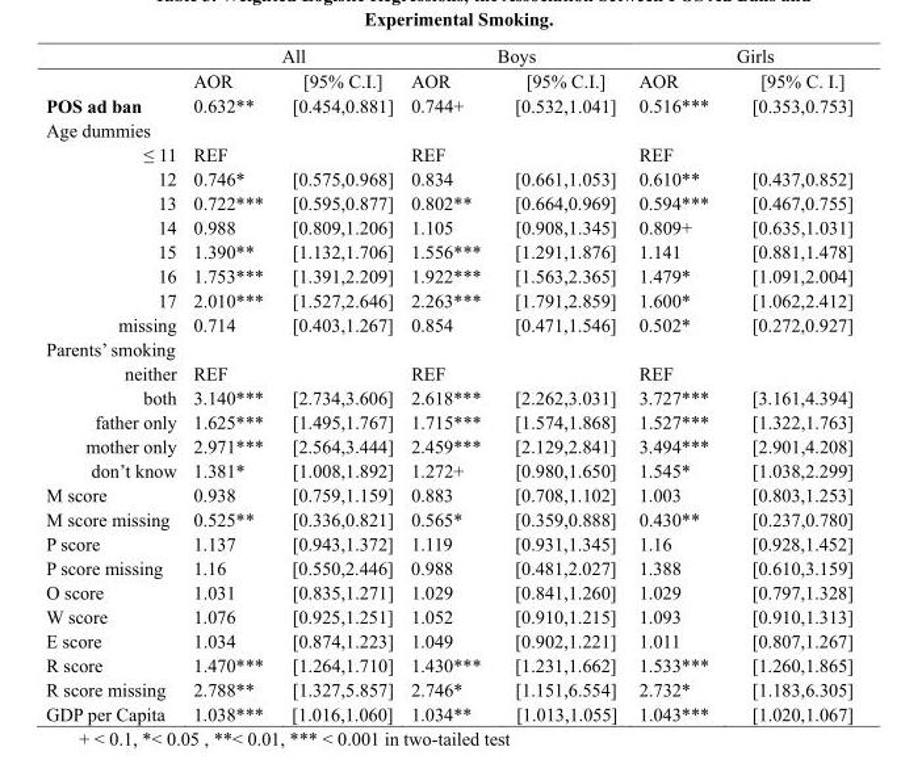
<table><thead><tr><td rowspan="2"></td><td colspan="2">All</td><td colspan="2">Boys</td><td colspan="2">Girls</td></tr><tr><td>AOR</td><td>[95% C.I.]</td><td>AOR</td><td>[95% C.I.]</td><td>AOR</td><td>[95% C. I.]</td></tr></thead><tbody><tr><td>POS ad ban</td><td>0.632**</td><td>[0.454,0.881]</td><td>0.744+</td><td>[0.532,1.041]</td><td>0.516***</td><td>[0.353,0.753]</td></tr><tr><td colspan="7">Age dummies</td></tr><tr><td>≤ 11</td><td>REF</td><td></td><td>REF</td><td></td><td>REF</td><td></td></tr><tr><td>12</td><td>0.746*</td><td>[0.575,0.968]</td><td>0.834</td><td>[0.661,1.053]</td><td>0.610**</td><td>[0.437,0.852]</td></tr><tr><td>13</td><td>0.722***</td><td>[0.595,0.877]</td><td>0.802**</td><td>[0.664,0.969]</td><td>0.594***</td><td>[0.467,0.755]</td></tr><tr><td>14</td><td>0.988</td><td>[0.809,1.206]</td><td>1.105</td><td>[0.908,1.345]</td><td>0.809+</td><td>[0.635,1.031]</td></tr><tr><td>15</td><td>1.390**</td><td>[1.132,1.706]</td><td>1.556***</td><td>[1.291,1.876]</td><td>1.141</td><td>[0.881,1.478]</td></tr><tr><td>16</td><td>1.753***</td><td>[1.391,2.209]</td><td>1.922***</td><td>[1.563,2.365]</td><td>1.479*</td><td>[1.091,2.004]</td></tr><tr><td>17</td><td>2.010***</td><td>[1.527,2.646]</td><td>2.263***</td><td>[1.791,2.859]</td><td>1.600*</td><td>[1.062,2.412]</td></tr><tr><td>missing</td><td>0.714</td><td>[0.403,1.267]</td><td>0.854</td><td>[0.471,1.546]</td><td>0.502*</td><td>[0.272,0.927]</td></tr><tr><td colspan="7">Parents’ smoking</td></tr><tr><td>neither</td><td>REF</td><td></td><td>REF</td><td></td><td>REF</td><td></td></tr><tr><td>both</td><td>3.140***</td><td>[2.734,3.606]</td><td>2.618***</td><td>[2.262,3.031]</td><td>3.727***</td><td>[3.161,4.394]</td></tr><tr><td>father only</td><td>1.625***</td><td>[1.495,1.767]</td><td>1.715***</td><td>[1.574,1.868]</td><td>1.527***</td><td>[1.322,1.763]</td></tr><tr><td>mother only</td><td>2.971***</td><td>[2.564,3.444]</td><td>2.459***</td><td>[2.129,2.841]</td><td>3.494***</td><td>[2.901,4.208]</td></tr><tr><td>don’t know</td><td>1.381*</td><td>[1.008,1.892]</td><td>1.272+</td><td>[0.980,1.650]</td><td>1.545*</td><td>[1.038,2.299]</td></tr><tr><td>M score</td><td>0.938</td><td>[0.759,1.159]</td><td>0.883</td><td>[0.708,1.102]</td><td>1.003</td><td>[0.803,1.253]</td></tr><tr><td>M score missing</td><td>0.525**</td><td>[0.336,0.821]</td><td>0.565*</td><td>[0.359,0.888]</td><td>0.430**</td><td>[0.237,0.780]</td></tr><tr><td>P score</td><td>1.137</td><td>[0.943,1.372]</td><td>1.119</td><td>[0.931,1.345]</td><td>1.16</td><td>[0.928,1.452]</td></tr><tr><td>P score missing</td><td>1.16</td><td>[0.550,2.446]</td><td>0.988</td><td>[0.481,2.027]</td><td>1.388</td><td>[0.610,3.159]</td></tr><tr><td>O score</td><td>1.031</td><td>[0.835,1.271]</td><td>1.029</td><td>[0.841,1.260]</td><td>1.029</td><td>[0.797,1.328]</td></tr><tr><td>W score</td><td>1.076</td><td>[0.925,1.251]</td><td>1.052</td><td>[0.910,1.215]</td><td>1.093</td><td>[0.910,1.313]</td></tr><tr><td>E score</td><td>1.034</td><td>[0.874,1.223]</td><td>1.049</td><td>[0.902,1.221]</td><td>1.011</td><td>[0.807,1.267]</td></tr><tr><td>R score</td><td>1.470***</td><td>[1.264,1.710]</td><td>1.430***</td><td>[1.231,1.662]</td><td>1.533***</td><td>[1.260,1.865]</td></tr><tr><td>R score missing</td><td>2.788**</td><td>[1.327,5.857]</td><td>2.746*</td><td>[1.151,6.554]</td><td>2.732*</td><td>[1.183,6.305]</td></tr><tr><td>GDP per Capita</td><td>1.038***</td><td>[1.016,1.060]</td><td>1.034**</td><td>[1.013,1.055]</td><td>1.043***</td><td>[1.020,1.067]</td></tr></tbody></table>